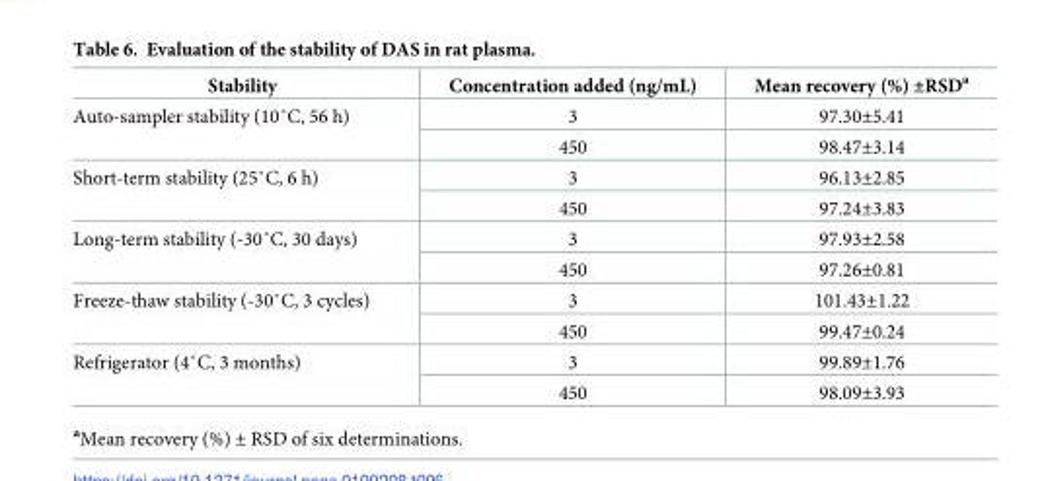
<table><thead><tr><td>Stability</td><td>Concentration added (ng/mL)</td><td>Mean recovery (%) ±RSD<sup>a</sup></td></tr></thead><tbody><tr><td rowspan="2">Auto-sampler stability (10˚C, 56 h)</td><td>3</td><td>97.30±5.41</td></tr><tr><td>450</td><td>98.47±3.14</td></tr><tr><td rowspan="2">Short-term stability (25˚C, 6 h)</td><td>3</td><td>96.13±2.85</td></tr><tr><td>450</td><td>97.24±3.83</td></tr><tr><td rowspan="2">Long-term stability (-30˚C, 30 days)</td><td>3</td><td>97.93±2.58</td></tr><tr><td>450</td><td>97.26±0.81</td></tr><tr><td rowspan="2">Freeze-thaw stability (-30˚C, 3 cycles)</td><td>3</td><td>101.43±1.22</td></tr><tr><td>450</td><td>99.47±0.24</td></tr><tr><td rowspan="2">Refrigerator (4˚C, 3 months)</td><td>3</td><td>99.89±1.76</td></tr><tr><td>450</td><td>98.09±3.93</td></tr></tbody></table>